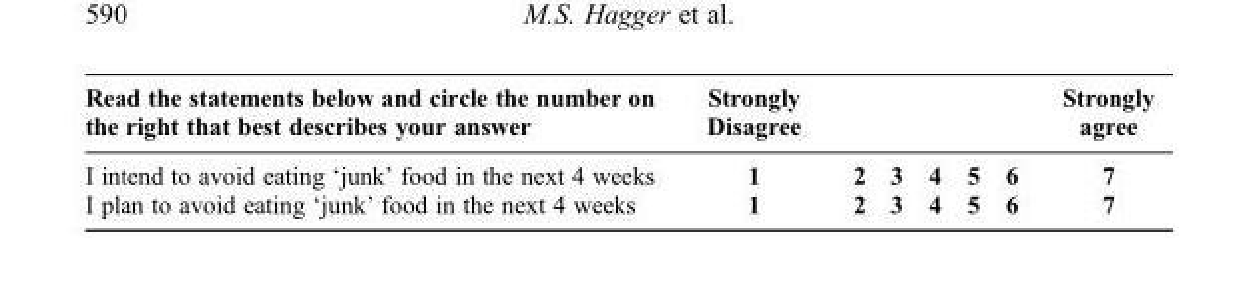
<table><thead><tr><td>Read the statements below and circle the number on the right that best describes your answer</td><td>Strongly Disagree</td><td></td><td></td><td></td><td></td><td></td><td>Strongly agree</td></tr></thead><tbody><tr><td>I intend to avoid eating ‘junk’ food in the next 4 weeks</td><td>1</td><td>2</td><td>3</td><td>4</td><td>5</td><td>6</td><td>7</td></tr><tr><td>I plan to avoid eating ‘junk’ food in the next 4 weeks</td><td>1</td><td>2</td><td>3</td><td>4</td><td>5</td><td>6</td><td>7</td></tr></tbody></table>